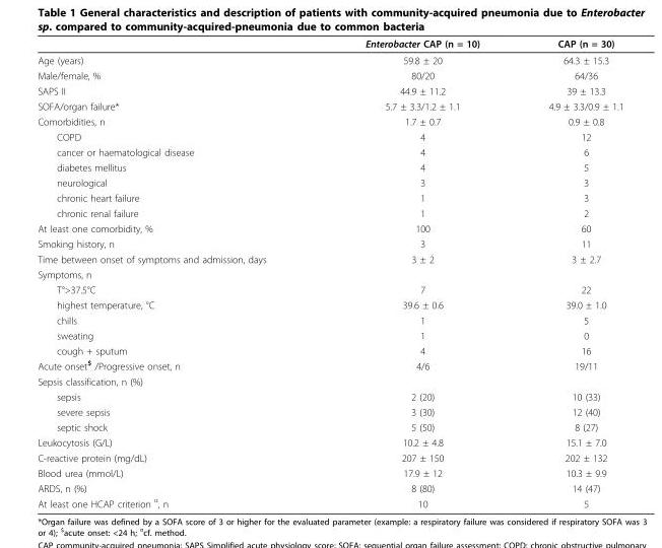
<table><thead><tr><td></td><td>Enterobacter CAP (n = 10)</td><td>CAP (n = 30)</td></tr></thead><tbody><tr><td>Age (years)</td><td>59.8 ± 20</td><td>64.3 ± 15.3</td></tr><tr><td>Male/female, %</td><td>80/20</td><td>64/36</td></tr><tr><td>SAPS II</td><td>44.9 ± 11.2</td><td>39 ± 13.3</td></tr><tr><td>SOFA/organ failure*</td><td>5.7 ± 3.3/1.2 ± 1.1</td><td>4.9 ± 3.3/0.9 ± 1.1</td></tr><tr><td>Comorbidities, n</td><td>1.7 ± 0.7</td><td>0.9 ± 0.8</td></tr><tr><td>COPD</td><td>4</td><td>12</td></tr><tr><td>cancer or haematological disease</td><td>4</td><td>6</td></tr><tr><td>diabetes mellitus</td><td>4</td><td>5</td></tr><tr><td>neurological</td><td>3</td><td>3</td></tr><tr><td>chronic heart failure</td><td>1</td><td>3</td></tr><tr><td>chronic renal failure</td><td>1</td><td>2</td></tr><tr><td>At least one comorbidity, %</td><td>100</td><td>60</td></tr><tr><td>Smoking history, n</td><td>3</td><td>11</td></tr><tr><td>Time between onset of symptoms and admission, days</td><td>3 ± 2</td><td>3 ± 2.7</td></tr><tr><td colspan="3">Symptoms, n</td></tr><tr><td>T°&gt;37.5°C</td><td>7</td><td>22</td></tr><tr><td>highest temperature, °C</td><td>39.6 ± 0.6</td><td>39.0 ± 1.0</td></tr><tr><td>chills</td><td>1</td><td>5</td></tr><tr><td>sweating</td><td>1</td><td>0</td></tr><tr><td>cough + sputum</td><td>4</td><td>16</td></tr><tr><td>Acute onset<sup>$</sup> /Progressive onset, n</td><td>4/6</td><td>19/11</td></tr><tr><td colspan="3">Sepsis classification, n (%)</td></tr><tr><td>sepsis</td><td>2 (20)</td><td>10 (33)</td></tr><tr><td>severe sepsis</td><td>3 (30)</td><td>12 (40)</td></tr><tr><td>septic shock</td><td>5 (50)</td><td>8 (27)</td></tr><tr><td>Leukocytosis (G/L)</td><td>10.2 ± 4.8</td><td>15.1 ± 7.0</td></tr><tr><td>C-reactive protein (mg/dL)</td><td>207 ± 150</td><td>202 ± 132</td></tr><tr><td>Blood urea (mmol/L)</td><td>17.9 ± 12</td><td>10.3 ± 9.9</td></tr><tr><td>ARDS, n (%)</td><td>8 (80)</td><td>14 (47)</td></tr><tr><td>At least one HCAP criterion <sup>¤</sup>, n</td><td>10</td><td>5</td></tr></tbody></table>